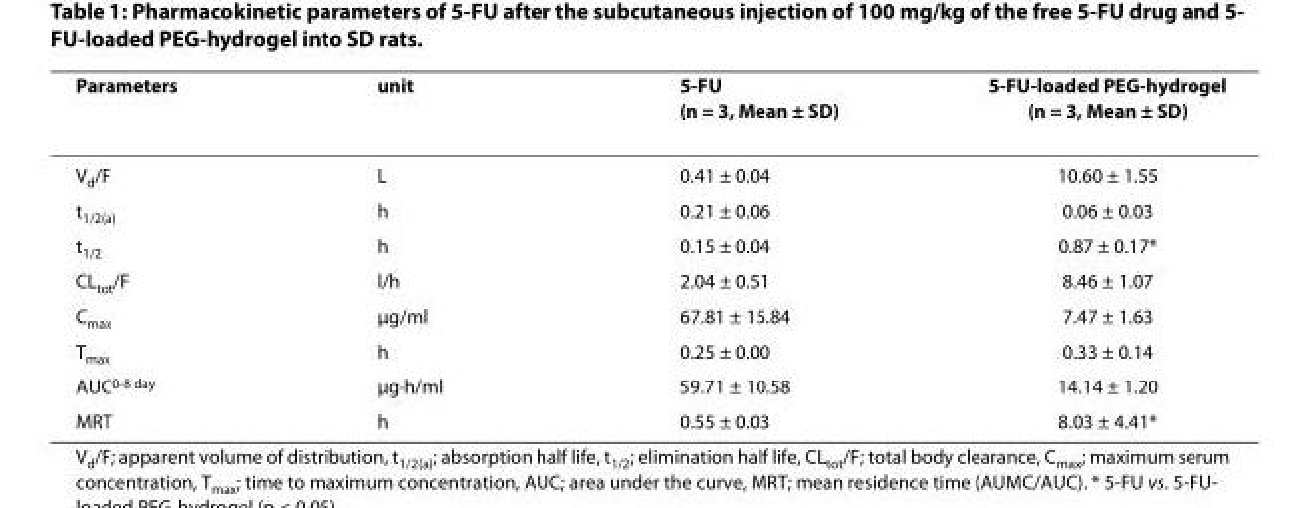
<table><thead><tr><td>Parameters</td><td>unit</td><td>5-FU (n = 3, Mean ± SD)</td><td>5-FU-loaded PEG-hydrogel (n = 3, Mean ± SD)</td></tr></thead><tbody><tr><td>V<sub>d</sub>/F</td><td>L</td><td>0.41 ± 0.04</td><td>10.60 ± 1.55</td></tr><tr><td>t<sub>1/2(a)</sub></td><td>h</td><td>0.21 ± 0.06</td><td>0.06 ± 0.03</td></tr><tr><td>t<sub>1/2</sub></td><td>h</td><td>0.15 ± 0.04</td><td>0.87 ± 0.17*</td></tr><tr><td>CL<sub>tot</sub>/F</td><td>l/h</td><td>2.04 ± 0.51</td><td>8.46 ± 1.07</td></tr><tr><td>C<sub>max</sub></td><td>μg/ml</td><td>67.81 ± 15.84</td><td>7.47 ± 1.63</td></tr><tr><td>T<sub>max</sub></td><td>h</td><td>0.25 ± 0.00</td><td>0.33 ± 0.14</td></tr><tr><td>AUC<sup>0-8 day</sup></td><td>μg·h/ml</td><td>59.71 ± 10.58</td><td>14.14 ± 1.20</td></tr><tr><td>MRT</td><td>h</td><td>0.55 ± 0.03</td><td>8.03 ± 4.41*</td></tr></tbody></table>